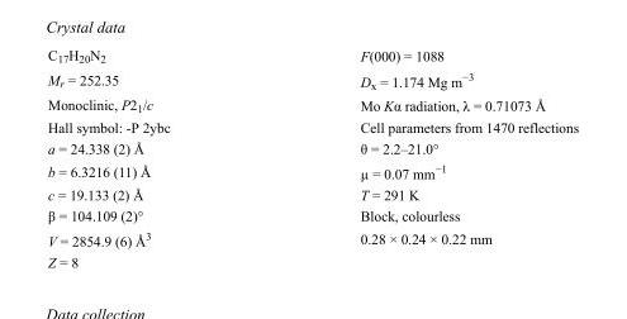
<table><tbody><tr><td>C<sub>17</sub>H<sub>20</sub>N<sub>2</sub></td><td>F(000) = 1088</td></tr><tr><td>M<sub>r</sub> = 252.35</td><td>D<sub>x</sub> = 1.174 Mg m<sup>−3</sup></td></tr><tr><td>Monoclinic, P2<sub>1</sub>/c</td><td>Mo Kα radiation, λ = 0.71073 Å</td></tr><tr><td>Hall symbol: -P 2ybc</td><td>Cell parameters from 1470 reflections</td></tr><tr><td>a = 24.338 (2) Å</td><td>θ = 2.2–21.0°</td></tr><tr><td>b = 6.3216 (11) Å</td><td>µ = 0.07 mm<sup>−1</sup></td></tr><tr><td>c = 19.133 (2) Å</td><td>T = 291 K</td></tr><tr><td>β = 104.109 (2)°</td><td>Block, colourless</td></tr><tr><td>V = 2854.9 (6) Å<sup>3</sup></td><td>0.28 × 0.24 × 0.22 mm</td></tr><tr><td>Z = 8</td><td></td></tr></tbody></table>